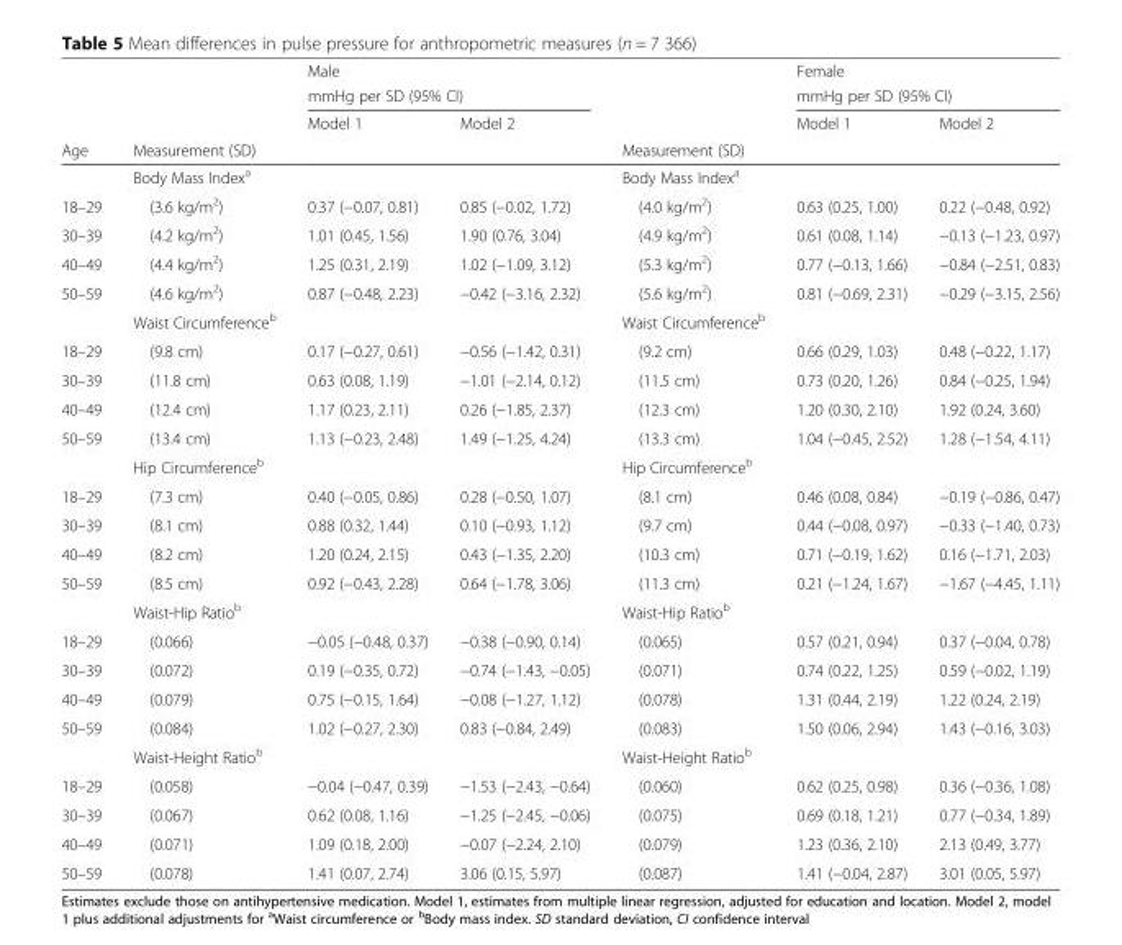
<table><thead><tr><td rowspan="4">Age</td><td rowspan="4">Measurement (SD)</td><td rowspan="2" colspan="2">Male mmHg per SD (95% CI)</td><td rowspan="4">Measurement (SD)</td><td rowspan="2" colspan="2">Female mmHg per SD (95% CI)</td></tr><tr></tr><tr><td rowspan="2">Model 1</td><td rowspan="2">Model 2</td><td rowspan="2">Model 1</td><td rowspan="2">Model 2</td></tr><tr></tr></thead><tbody><tr><td></td><td>Body Mass Index<sup>a</sup></td><td></td><td></td><td>Body Mass Index<sup>a</sup></td><td></td><td></td></tr><tr><td>18–29</td><td>(3.6 kg/m<sup>2</sup>)</td><td>0.37 (−0.07, 0.81)</td><td>0.85 (−0.02, 1.72)</td><td>(4.0 kg/m<sup>2</sup>)</td><td>0.63 (0.25, 1.00)</td><td>0.22 (−0.48, 0.92)</td></tr><tr><td>30–39</td><td>(4.2 kg/m<sup>2</sup>)</td><td>1.01 (0.45, 1.56)</td><td>1.90 (0.76, 3.04)</td><td>(4.9 kg/m<sup>2</sup>)</td><td>0.61 (0.08, 1.14)</td><td>−0.13 (−1.23, 0.97)</td></tr><tr><td>40–49</td><td>(4.4 kg/m<sup>2</sup>)</td><td>1.25 (0.31, 2.19)</td><td>1.02 (−1.09, 3.12)</td><td>(5.3 kg/m<sup>2</sup>)</td><td>0.77 (−0.13, 1.66)</td><td>−0.84 (−2.51, 0.83)</td></tr><tr><td rowspan="2">50–59</td><td>(4.6 kg/m<sup>2</sup>)</td><td>0.87 (−0.48, 2.23)</td><td>−0.42 (−3.16, 2.32)</td><td>(5.6 kg/m<sup>2</sup>)</td><td>0.81 (−0.69, 2.31)</td><td>−0.29 (−3.15, 2.56)</td></tr><tr><td>Waist Circumference<sup>b</sup></td><td></td><td></td><td>Waist Circumference<sup>b</sup></td><td></td><td></td></tr><tr><td>18–29</td><td>(9.8 cm)</td><td>0.17 (−0.27, 0.61)</td><td>−0.56 (−1.42, 0.31)</td><td>(9.2 cm)</td><td>0.66 (0.29, 1.03)</td><td>0.48 (−0.22, 1.17)</td></tr><tr><td>30–39</td><td>(11.8 cm)</td><td>0.63 (0.08, 1.19)</td><td>−1.01 (−2.14, 0.12)</td><td>(11.5 cm)</td><td>0.73 (0.20, 1.26)</td><td>0.84 (−0.25, 1.94)</td></tr><tr><td>40–49</td><td>(12.4 cm)</td><td>1.17 (0.23, 2.11)</td><td>0.26 (−1.85, 2.37)</td><td>(12.3 cm)</td><td>1.20 (0.30, 2.10)</td><td>1.92 (0.24, 3.60)</td></tr><tr><td rowspan="2">50–59</td><td>(13.4 cm)</td><td>1.13 (−0.23, 2.48)</td><td>1.49 (−1.25, 4.24)</td><td>(13.3 cm)</td><td>1.04 (−0.45, 2.52)</td><td>1.28 (−1.54, 4.11)</td></tr><tr><td>Hip Circumference<sup>b</sup></td><td></td><td></td><td>Hip Circumference<sup>b</sup></td><td></td><td></td></tr><tr><td>18–29</td><td>(7.3 cm)</td><td>0.40 (−0.05, 0.86)</td><td>0.28 (−0.50, 1.07)</td><td>(8.1 cm)</td><td>0.46 (0.08, 0.84)</td><td>−0.19 (−0.86, 0.47)</td></tr><tr><td>30–39</td><td>(8.1 cm)</td><td>0.88 (0.32, 1.44)</td><td>0.10 (−0.93, 1.12)</td><td>(9.7 cm)</td><td>0.44 (−0.08, 0.97)</td><td>−0.33 (−1.40, 0.73)</td></tr><tr><td>40–49</td><td>(8.2 cm)</td><td>1.20 (0.24, 2.15)</td><td>0.43 (−1.35, 2.20)</td><td>(10.3 cm)</td><td>0.71 (−0.19, 1.62)</td><td>0.16 (−1.71, 2.03)</td></tr><tr><td rowspan="2">50–59</td><td>(8.5 cm)</td><td>0.92 (−0.43, 2.28)</td><td>0.64 (−1.78, 3.06)</td><td>(11.3 cm)</td><td>0.21 (−1.24, 1.67)</td><td>−1.67 (−4.45, 1.11)</td></tr><tr><td>Waist-Hip Ratio<sup>b</sup></td><td></td><td></td><td>Waist-Hip Ratio<sup>b</sup></td><td></td><td></td></tr><tr><td>18–29</td><td>(0.066)</td><td>−0.05 (−0.48, 0.37)</td><td>−0.38 (−0.90, 0.14)</td><td>(0.065)</td><td>0.57 (0.21, 0.94)</td><td>0.37 (−0.04, 0.78)</td></tr><tr><td>30–39</td><td>(0.072)</td><td>0.19 (−0.35, 0.72)</td><td>−0.74 (−1.43, −0.05)</td><td>(0.071)</td><td>0.74 (0.22, 1.25)</td><td>0.59 (−0.02, 1.19)</td></tr><tr><td>40–49</td><td>(0.079)</td><td>0.75 (−0.15, 1.64)</td><td>−0.08 (−1.27, 1.12)</td><td>(0.078)</td><td>1.31 (0.44, 2.19)</td><td>1.22 (0.24, 2.19)</td></tr><tr><td rowspan="2">50–59</td><td>(0.084)</td><td>1.02 (−0.27, 2.30)</td><td>0.83 (−0.84, 2.49)</td><td>(0.083)</td><td>1.50 (0.06, 2.94)</td><td>1.43 (−0.16, 3.03)</td></tr><tr><td>Waist-Height Ratio<sup>b</sup></td><td></td><td></td><td>Waist-Height Ratio<sup>b</sup></td><td></td><td></td></tr><tr><td>18–29</td><td>(0.058)</td><td>−0.04 (−0.47, 0.39)</td><td>−1.53 (−2.43, −0.64)</td><td>(0.060)</td><td>0.62 (0.25, 0.98)</td><td>0.36 (−0.36, 1.08)</td></tr><tr><td>30–39</td><td>(0.067)</td><td>0.62 (0.08, 1.16)</td><td>−1.25 (−2.45, −0.06)</td><td>(0.075)</td><td>0.69 (0.18, 1.21)</td><td>0.77 (−0.34, 1.89)</td></tr><tr><td>40–49</td><td>(0.071)</td><td>1.09 (0.18, 2.00)</td><td>−0.07 (−2.24, 2.10)</td><td>(0.079)</td><td>1.23 (0.36, 2.10)</td><td>2.13 (0.49, 3.77)</td></tr><tr><td>50–59</td><td>(0.078)</td><td>1.41 (0.07, 2.74)</td><td>3.06 (0.15, 5.97)</td><td>(0.087)</td><td>1.41 (−0.04, 2.87)</td><td>3.01 (0.05, 5.97)</td></tr></tbody></table>